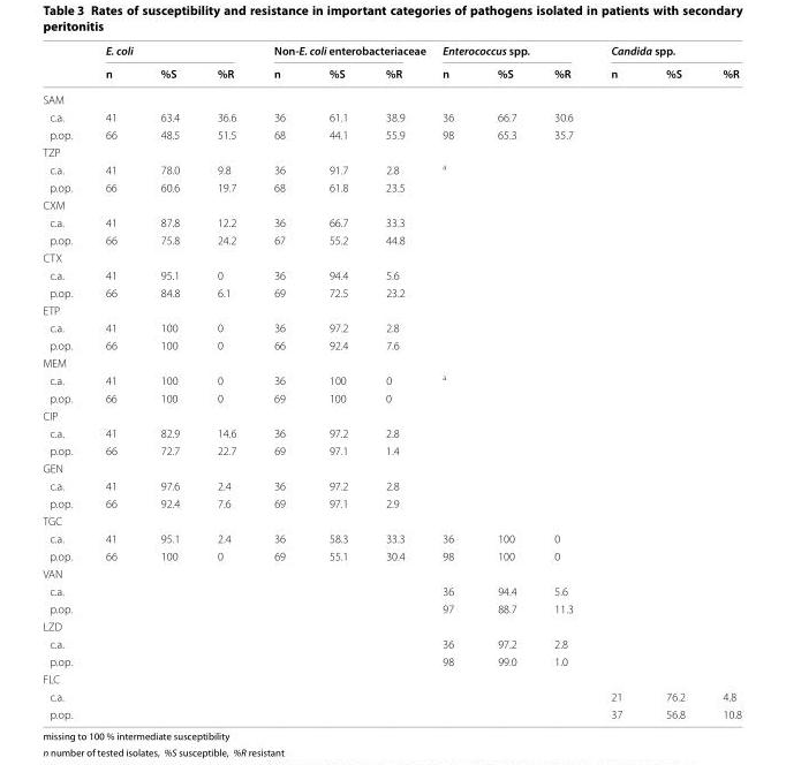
<table><thead><tr><td rowspan="2"></td><td colspan="3">E. coli</td><td colspan="3">Non-E. coli enterobacteriaceae</td><td colspan="3">Enterococcus spp.</td><td colspan="3">Candida spp.</td></tr><tr><td>n</td><td>%S</td><td>%R</td><td>n</td><td>%S</td><td>%R</td><td>n</td><td>%S</td><td>%R</td><td>n</td><td>%S</td><td>%R</td></tr></thead><tbody><tr><td colspan="13">SAM</td></tr><tr><td>c.a.</td><td>41</td><td>63.4</td><td>36.6</td><td>36</td><td>61.1</td><td>38.9</td><td>36</td><td>66.7</td><td>30.6</td><td></td><td></td><td></td></tr><tr><td>p.op.</td><td>66</td><td>48.5</td><td>51.5</td><td>68</td><td>44.1</td><td>55.9</td><td>98</td><td>65.3</td><td>35.7</td><td></td><td></td><td></td></tr><tr><td colspan="13">TZP</td></tr><tr><td>c.a.</td><td>41</td><td>78.0</td><td>9.8</td><td>36</td><td>91.7</td><td>2.8</td><td><sup>a</sup></td><td></td><td></td><td></td><td></td><td></td></tr><tr><td>p.op.</td><td>66</td><td>60.6</td><td>19.7</td><td>68</td><td>61.8</td><td>23.5</td><td></td><td></td><td></td><td></td><td></td><td></td></tr><tr><td colspan="13">CXM</td></tr><tr><td>c.a.</td><td>41</td><td>87.8</td><td>12.2</td><td>36</td><td>66.7</td><td>33.3</td><td></td><td></td><td></td><td></td><td></td><td></td></tr><tr><td>p.op.</td><td>66</td><td>75.8</td><td>24.2</td><td>67</td><td>55.2</td><td>44.8</td><td></td><td></td><td></td><td></td><td></td><td></td></tr><tr><td colspan="13">CTX</td></tr><tr><td>c.a.</td><td>41</td><td>95.1</td><td>0</td><td>36</td><td>94.4</td><td>5.6</td><td></td><td></td><td></td><td></td><td></td><td></td></tr><tr><td>p.op.</td><td>66</td><td>84.8</td><td>6.1</td><td>69</td><td>72.5</td><td>23.2</td><td></td><td></td><td></td><td></td><td></td><td></td></tr><tr><td colspan="13">ETP</td></tr><tr><td>c.a.</td><td>41</td><td>100</td><td>0</td><td>36</td><td>97.2</td><td>2.8</td><td></td><td></td><td></td><td></td><td></td><td></td></tr><tr><td>p.op.</td><td>66</td><td>100</td><td>0</td><td>66</td><td>92.4</td><td>7.6</td><td></td><td></td><td></td><td></td><td></td><td></td></tr><tr><td colspan="13">MEM</td></tr><tr><td>c.a.</td><td>41</td><td>100</td><td>0</td><td>36</td><td>100</td><td>0</td><td><sup>a</sup></td><td></td><td></td><td></td><td></td><td></td></tr><tr><td>p.op.</td><td>66</td><td>100</td><td>0</td><td>69</td><td>100</td><td>0</td><td></td><td></td><td></td><td></td><td></td><td></td></tr><tr><td colspan="13">CIP</td></tr><tr><td>c.a.</td><td>41</td><td>82.9</td><td>14.6</td><td>36</td><td>97.2</td><td>2.8</td><td></td><td></td><td></td><td></td><td></td><td></td></tr><tr><td>p.op.</td><td>66</td><td>72.7</td><td>22.7</td><td>69</td><td>97.1</td><td>1.4</td><td></td><td></td><td></td><td></td><td></td><td></td></tr><tr><td colspan="13">GEN</td></tr><tr><td>c.a.</td><td>41</td><td>97.6</td><td>2.4</td><td>36</td><td>97.2</td><td>2.8</td><td></td><td></td><td></td><td></td><td></td><td></td></tr><tr><td>p.op.</td><td>66</td><td>92.4</td><td>7.6</td><td>69</td><td>97.1</td><td>2.9</td><td></td><td></td><td></td><td></td><td></td><td></td></tr><tr><td colspan="13">TGC</td></tr><tr><td>c.a.</td><td>41</td><td>95.1</td><td>2.4</td><td>36</td><td>58.3</td><td>33.3</td><td>36</td><td>100</td><td>0</td><td></td><td></td><td></td></tr><tr><td>p.op.</td><td>66</td><td>100</td><td>0</td><td>69</td><td>55.1</td><td>30.4</td><td>98</td><td>100</td><td>0</td><td></td><td></td><td></td></tr><tr><td colspan="13">VAN</td></tr><tr><td>c.a.</td><td></td><td></td><td></td><td></td><td></td><td></td><td>36</td><td>94.4</td><td>5.6</td><td></td><td></td><td></td></tr><tr><td>p.op.</td><td></td><td></td><td></td><td></td><td></td><td></td><td>97</td><td>88.7</td><td>11.3</td><td></td><td></td><td></td></tr><tr><td colspan="13">LZD</td></tr><tr><td>c.a.</td><td></td><td></td><td></td><td></td><td></td><td></td><td>36</td><td>97.2</td><td>2.8</td><td></td><td></td><td></td></tr><tr><td>p.op.</td><td></td><td></td><td></td><td></td><td></td><td></td><td>98</td><td>99.0</td><td>1.0</td><td></td><td></td><td></td></tr><tr><td colspan="13">FLC</td></tr><tr><td>c.a.</td><td></td><td></td><td></td><td></td><td></td><td></td><td></td><td></td><td></td><td>21</td><td>76.2</td><td>4.8</td></tr><tr><td>p.op.</td><td></td><td></td><td></td><td></td><td></td><td></td><td></td><td></td><td></td><td>37</td><td>56.8</td><td>10.8</td></tr></tbody></table>